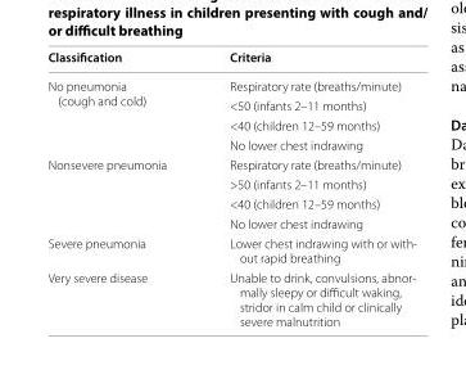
<table><thead><tr><td>Classification</td><td>Criteria</td></tr></thead><tbody><tr><td rowspan="4">No pneumonia (cough and cold)</td><td>Respiratory rate (breaths/minute)</td></tr><tr><td>&lt;50 (infants 2–11 months)</td></tr><tr><td>&lt;40 (children 12–59 months)</td></tr><tr><td>No lower chest indrawing</td></tr><tr><td rowspan="4">Nonsevere pneumonia</td><td>Respiratory rate (breaths/minute)</td></tr><tr><td>&gt;50 (infants 2–11 months)</td></tr><tr><td>&lt;40 (children 12–59 months)</td></tr><tr><td>No lower chest indrawing</td></tr><tr><td>Severe pneumonia</td><td>Lower chest indrawing with or with‑ out rapid breathing</td></tr><tr><td>Very severe disease</td><td>Unable to drink, convulsions, abnor‑ mally sleepy or difficult waking, stridor in calm child or clinically severe malnutrition</td></tr></tbody></table>